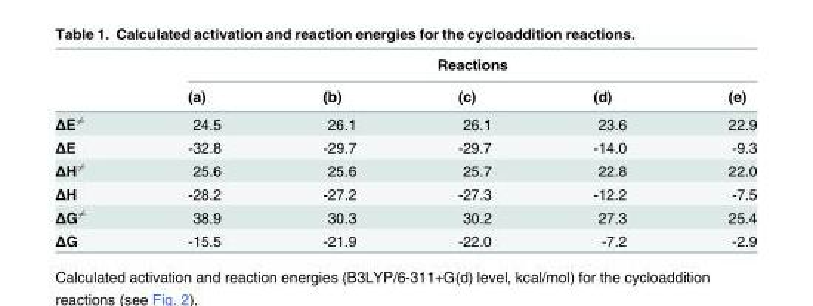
<table><thead><tr><td rowspan="2"></td><td colspan="5">Reactions</td></tr><tr><td>(a)</td><td>(b)</td><td>(c)</td><td>(d)</td><td>(e)</td></tr></thead><tbody><tr><td>ΔE6¼</td><td>24.5</td><td>26.1</td><td>26.1</td><td>23.6</td><td>22.9</td></tr><tr><td>ΔE</td><td>-32.8</td><td>-29.7</td><td>-29.7</td><td>-14.0</td><td>-9.3</td></tr><tr><td>ΔH6¼</td><td>25.6</td><td>25.6</td><td>25.7</td><td>22.8</td><td>22.0</td></tr><tr><td>ΔH</td><td>-28.2</td><td>-27.2</td><td>-27.3</td><td>-12.2</td><td>-7.5</td></tr><tr><td>ΔG6¼</td><td>38.9</td><td>30.3</td><td>30.2</td><td>27.3</td><td>25.4</td></tr><tr><td>ΔG</td><td>-15.5</td><td>-21.9</td><td>-22.0</td><td>-7.2</td><td>-2.9</td></tr></tbody></table>